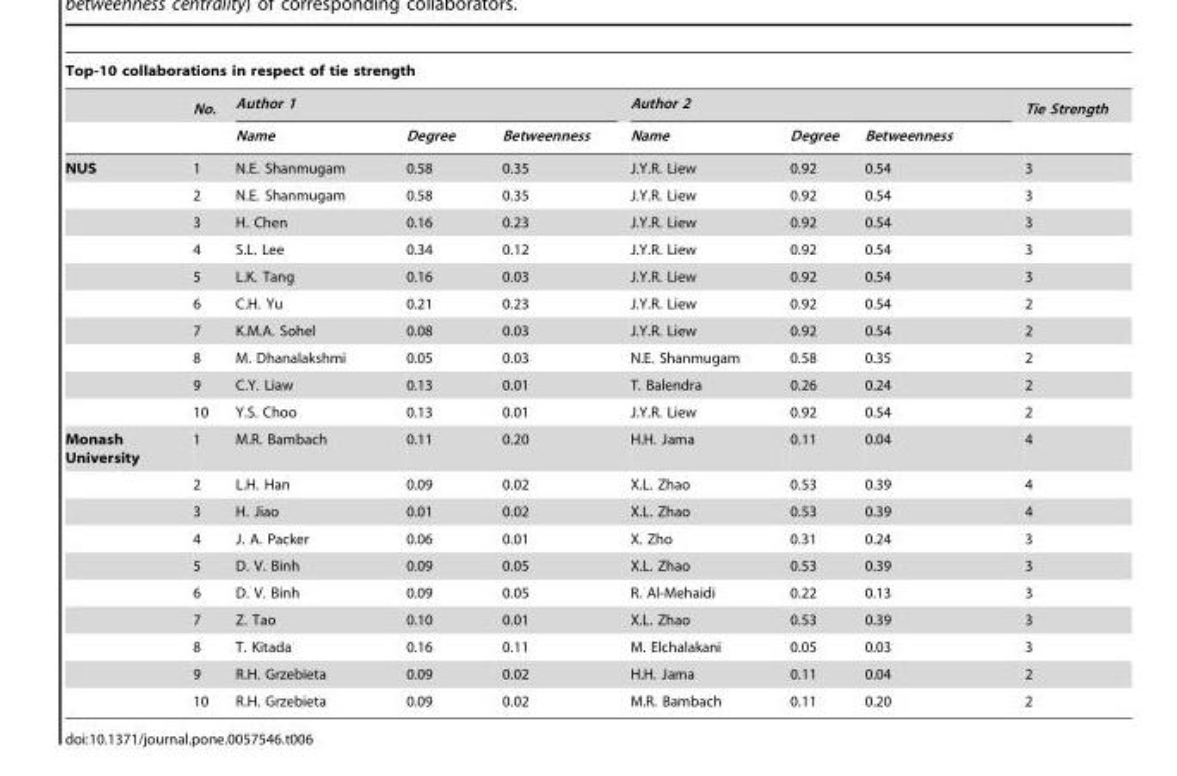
<table><thead><tr><td colspan="9">Top-10 collaborations in respect of tie strength</td></tr><tr><td rowspan="2"></td><td rowspan="2">No.</td><td colspan="3">Author 1</td><td colspan="3">Author 2</td><td rowspan="2">Tie Strength</td></tr><tr><td>Name</td><td>Degree</td><td>Betweenness</td><td>Name</td><td>Degree</td><td>Betweenness</td></tr></thead><tbody><tr><td rowspan="10">NUS</td><td>1</td><td>N.E. Shanmugam</td><td>0.58</td><td>0.35</td><td>J.Y.R. Liew</td><td>0.92</td><td>0.54</td><td>3</td></tr><tr><td>2</td><td>N.E. Shanmugam</td><td>0.58</td><td>0.35</td><td>J.Y.R. Liew</td><td>0.92</td><td>0.54</td><td>3</td></tr><tr><td>3</td><td>H. Chen</td><td>0.16</td><td>0.23</td><td>J.Y.R. Liew</td><td>0.92</td><td>0.54</td><td>3</td></tr><tr><td>4</td><td>S.L. Lee</td><td>0.34</td><td>0.12</td><td>J.Y.R. Liew</td><td>0.92</td><td>0.54</td><td>3</td></tr><tr><td>5</td><td>L.K. Tang</td><td>0.16</td><td>0.03</td><td>J.Y.R. Liew</td><td>0.92</td><td>0.54</td><td>3</td></tr><tr><td>6</td><td>C.H. Yu</td><td>0.21</td><td>0.23</td><td>J.Y.R. Liew</td><td>0.92</td><td>0.54</td><td>2</td></tr><tr><td>7</td><td>K.M.A. Sohel</td><td>0.08</td><td>0.03</td><td>J.Y.R. Liew</td><td>0.92</td><td>0.54</td><td>2</td></tr><tr><td>8</td><td>M. Dhanalakshmi</td><td>0.05</td><td>0.03</td><td>N.E. Shanmugam</td><td>0.58</td><td>0.35</td><td>2</td></tr><tr><td>9</td><td>C.Y. Liaw</td><td>0.13</td><td>0.01</td><td>T. Balendra</td><td>0.26</td><td>0.24</td><td>2</td></tr><tr><td>10</td><td>Y.S. Choo</td><td>0.13</td><td>0.01</td><td>J.Y.R. Liew</td><td>0.92</td><td>0.54</td><td>2</td></tr><tr><td rowspan="10">Monash University</td><td>1</td><td>M.R. Bambach</td><td>0.11</td><td>0.20</td><td>H.H. Jama</td><td>0.11</td><td>0.04</td><td>4</td></tr><tr><td>2</td><td>L.H. Han</td><td>0.09</td><td>0.02</td><td>X.L. Zhao</td><td>0.53</td><td>0.39</td><td>4</td></tr><tr><td>3</td><td>H. Jiao</td><td>0.01</td><td>0.02</td><td>X.L. Zhao</td><td>0.53</td><td>0.39</td><td>4</td></tr><tr><td>4</td><td>J. A. Packer</td><td>0.06</td><td>0.01</td><td>X. Zho</td><td>0.31</td><td>0.24</td><td>3</td></tr><tr><td>5</td><td>D. V. Binh</td><td>0.09</td><td>0.05</td><td>X.L. Zhao</td><td>0.53</td><td>0.39</td><td>3</td></tr><tr><td>6</td><td>D. V. Binh</td><td>0.09</td><td>0.05</td><td>R. Al-Mehaidi</td><td>0.22</td><td>0.13</td><td>3</td></tr><tr><td>7</td><td>Z. Tao</td><td>0.10</td><td>0.01</td><td>X.L. Zhao</td><td>0.53</td><td>0.39</td><td>3</td></tr><tr><td>8</td><td>T. Kitada</td><td>0.16</td><td>0.11</td><td>M. Elchalakani</td><td>0.05</td><td>0.03</td><td>3</td></tr><tr><td>9</td><td>R.H. Grzebieta</td><td>0.09</td><td>0.02</td><td>H.H. Jama</td><td>0.11</td><td>0.04</td><td>2</td></tr><tr><td>10</td><td>R.H. Grzebieta</td><td>0.09</td><td>0.02</td><td>M.R. Bambach</td><td>0.11</td><td>0.20</td><td>2</td></tr></tbody></table>